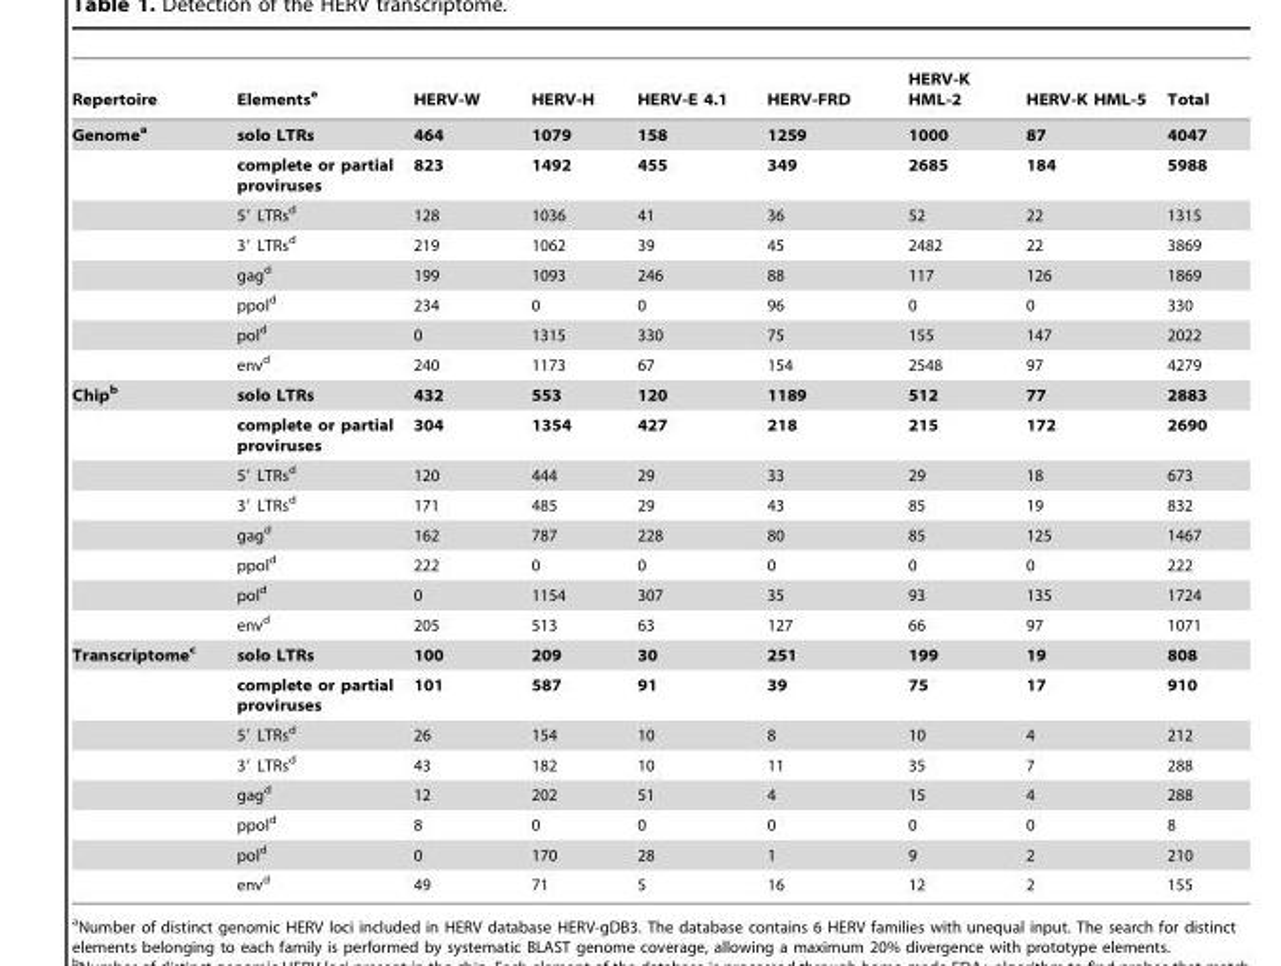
<table><thead><tr><td>Repertoire</td><td>Elements<sup>e</sup></td><td>HERV-W</td><td>HERV-H</td><td>HERV-E 4.1</td><td>HERV-FRD</td><td>HERV-K HML-2</td><td>HERV-K HML-5</td><td>Total</td></tr></thead><tbody><tr><td rowspan="8">Genomea</td><td>solo LTRs</td><td>464</td><td>1079</td><td>158</td><td>1259</td><td>1000</td><td>87</td><td>4047</td></tr><tr><td>complete or partial proviruses</td><td>823</td><td>1492</td><td>455</td><td>349</td><td>2685</td><td>184</td><td>5988</td></tr><tr><td>5′ LTRs<sup>d</sup></td><td>128</td><td>1036</td><td>41</td><td>36</td><td>52</td><td>22</td><td>1315</td></tr><tr><td>3′ LTRs<sup>d</sup></td><td>219</td><td>1062</td><td>39</td><td>45</td><td>2482</td><td>22</td><td>3869</td></tr><tr><td>gag<sup>d</sup></td><td>199</td><td>1093</td><td>246</td><td>88</td><td>117</td><td>126</td><td>1869</td></tr><tr><td>ppol<sup>d</sup></td><td>234</td><td>0</td><td>0</td><td>96</td><td>0</td><td>0</td><td>330</td></tr><tr><td>pol<sup>d</sup></td><td>0</td><td>1315</td><td>330</td><td>75</td><td>155</td><td>147</td><td>2022</td></tr><tr><td>env<sup>d</sup></td><td>240</td><td>1173</td><td>67</td><td>154</td><td>2548</td><td>97</td><td>4279</td></tr><tr><td rowspan="8">Chipb</td><td>solo LTRs</td><td>432</td><td>553</td><td>120</td><td>1189</td><td>512</td><td>77</td><td>2883</td></tr><tr><td>complete or partial proviruses</td><td>304</td><td>1354</td><td>427</td><td>218</td><td>215</td><td>172</td><td>2690</td></tr><tr><td>5′ LTRs<sup>d</sup></td><td>120</td><td>444</td><td>29</td><td>33</td><td>29</td><td>18</td><td>673</td></tr><tr><td>3′ LTRs<sup>d</sup></td><td>171</td><td>485</td><td>29</td><td>43</td><td>85</td><td>19</td><td>832</td></tr><tr><td>gag<sup>d</sup></td><td>162</td><td>787</td><td>228</td><td>80</td><td>85</td><td>125</td><td>1467</td></tr><tr><td>ppol<sup>d</sup></td><td>222</td><td>0</td><td>0</td><td>0</td><td>0</td><td>0</td><td>222</td></tr><tr><td>pol<sup>d</sup></td><td>0</td><td>1154</td><td>307</td><td>35</td><td>93</td><td>135</td><td>1724</td></tr><tr><td>env<sup>d</sup></td><td>205</td><td>513</td><td>63</td><td>127</td><td>66</td><td>97</td><td>1071</td></tr><tr><td rowspan="8">Transcriptomec</td><td>solo LTRs</td><td>100</td><td>209</td><td>30</td><td>251</td><td>199</td><td>19</td><td>808</td></tr><tr><td>complete or partial proviruses</td><td>101</td><td>587</td><td>91</td><td>39</td><td>75</td><td>17</td><td>910</td></tr><tr><td>5′ LTRs<sup>d</sup></td><td>26</td><td>154</td><td>10</td><td>8</td><td>10</td><td>4</td><td>212</td></tr><tr><td>3′ LTRs<sup>d</sup></td><td>43</td><td>182</td><td>10</td><td>11</td><td>35</td><td>7</td><td>288</td></tr><tr><td>gag<sup>d</sup></td><td>12</td><td>202</td><td>51</td><td>4</td><td>15</td><td>4</td><td>288</td></tr><tr><td>ppol<sup>d</sup></td><td>8</td><td>0</td><td>0</td><td>0</td><td>0</td><td>0</td><td>8</td></tr><tr><td>pol<sup>d</sup></td><td>0</td><td>170</td><td>28</td><td>1</td><td>9</td><td>2</td><td>210</td></tr><tr><td>env<sup>d</sup></td><td>49</td><td>71</td><td>5</td><td>16</td><td>12</td><td>2</td><td>155</td></tr></tbody></table>